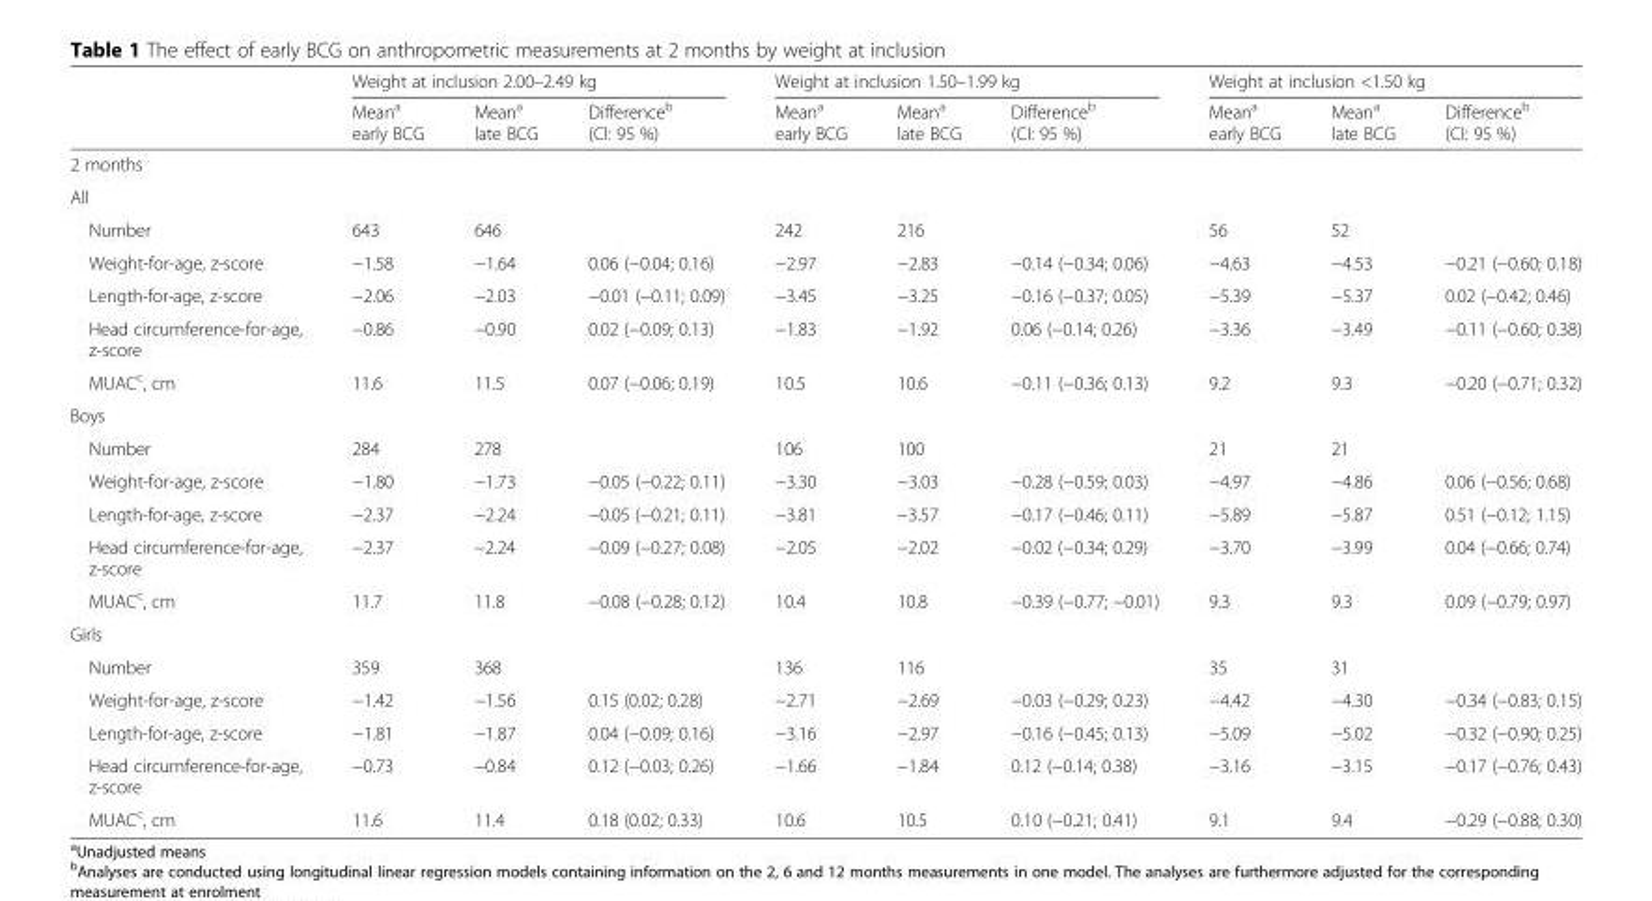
<table><thead><tr><td rowspan="2"></td><td colspan="3">Weight at inclusion 2.00–2.49 kg</td><td colspan="3">Weight at inclusion 1.50–1.99 kg</td><td colspan="3">Weight at inclusion &lt;1.50 kg</td></tr><tr><td>Mean<sup>a</sup> early BCG</td><td>Mean<sup>a</sup> late BCG</td><td>Difference<sup>b</sup> (CI: 95 %)</td><td>Mean<sup>a</sup> early BCG</td><td>Mean<sup>a</sup> late BCG</td><td>Difference<sup>b</sup> (CI: 95 %)</td><td>Mean<sup>a</sup> early BCG</td><td>Mean<sup>a</sup> late BCG</td><td>Difference<sup>b</sup> (CI: 95 %)</td></tr></thead><tbody><tr><td colspan="10">2 months</td></tr><tr><td colspan="10">All</td></tr><tr><td>Number</td><td>643</td><td>646</td><td></td><td>242</td><td>216</td><td></td><td>56</td><td>52</td><td></td></tr><tr><td>Weight-for-age, z-score</td><td>−1.58</td><td>−1.64</td><td>0.06 (−0.04; 0.16)</td><td>−2.97</td><td>−2.83</td><td>−0.14 (−0.34; 0.06)</td><td>−4.63</td><td>−4.53</td><td>−0.21 (−0.60; 0.18)</td></tr><tr><td>Length-for-age, z-score</td><td>−2.06</td><td>−2.03</td><td>−0.01 (−0.11; 0.09)</td><td>−3.45</td><td>−3.25</td><td>−0.16 (−0.37; 0.05)</td><td>−5.39</td><td>−5.37</td><td>0.02 (−0.42; 0.46)</td></tr><tr><td>Head circumference-for-age, z-score</td><td>−0.86</td><td>−0.90</td><td>0.02 (−0.09; 0.13)</td><td>−1.83</td><td>−1.92</td><td>0.06 (−0.14; 0.26)</td><td>−3.36</td><td>−3.49</td><td>−0.11 (−0.60; 0.38)</td></tr><tr><td>MUAC<sup>c</sup>, cm</td><td>11.6</td><td>11.5</td><td>0.07 (−0.06; 0.19)</td><td>10.5</td><td>10.6</td><td>−0.11 (−0.36; 0.13)</td><td>9.2</td><td>9.3</td><td>−0.20 (−0.71; 0.32)</td></tr><tr><td colspan="10">Boys</td></tr><tr><td>Number</td><td>284</td><td>278</td><td></td><td>106</td><td>100</td><td></td><td>21</td><td>21</td><td></td></tr><tr><td>Weight-for-age, z-score</td><td>−1.80</td><td>−1.73</td><td>−0.05 (−0.22; 0.11)</td><td>−3.30</td><td>−3.03</td><td>−0.28 (−0.59; 0.03)</td><td>−4.97</td><td>−4.86</td><td>0.06 (−0.56; 0.68)</td></tr><tr><td>Length-for-age, z-score</td><td>−2.37</td><td>−2.24</td><td>−0.05 (−0.21; 0.11)</td><td>−3.81</td><td>−3.57</td><td>−0.17 (−0.46; 0.11)</td><td>−5.89</td><td>−5.87</td><td>0.51 (−0.12; 1.15)</td></tr><tr><td>Head circumference-for-age, z-score</td><td>−2.37</td><td>−2.24</td><td>−0.09 (−0.27; 0.08)</td><td>−2.05</td><td>−2.02</td><td>−0.02 (−0.34; 0.29)</td><td>−3.70</td><td>−3.99</td><td>0.04 (−0.66; 0.74)</td></tr><tr><td>MUAC<sup>c</sup>, cm</td><td>11.7</td><td>11.8</td><td>−0.08 (−0.28; 0.12)</td><td>10.4</td><td>10.8</td><td>−0.39 (−0.77; −0.01)</td><td>9.3</td><td>9.3</td><td>0.09 (−0.79; 0.97)</td></tr><tr><td colspan="10">Girls</td></tr><tr><td>Number</td><td>359</td><td>368</td><td></td><td>136</td><td>116</td><td></td><td>35</td><td>31</td><td></td></tr><tr><td>Weight-for-age, z-score</td><td>−1.42</td><td>−1.56</td><td>0.15 (0.02; 0.28)</td><td>−2.71</td><td>−2.69</td><td>−0.03 (−0.29; 0.23)</td><td>−4.42</td><td>−4.30</td><td>−0.34 (−0.83; 0.15)</td></tr><tr><td>Length-for-age, z-score</td><td>−1.81</td><td>−1.87</td><td>0.04 (−0.09; 0.16)</td><td>−3.16</td><td>−2.97</td><td>−0.16 (−0.45; 0.13)</td><td>−5.09</td><td>−5.02</td><td>−0.32 (−0.90; 0.25)</td></tr><tr><td>Head circumference-for-age, z-score</td><td>−0.73</td><td>−0.84</td><td>0.12 (−0.03; 0.26)</td><td>−1.66</td><td>−1.84</td><td>0.12 (−0.14; 0.38)</td><td>−3.16</td><td>−3.15</td><td>−0.17 (−0.76; 0.43)</td></tr><tr><td>MUAC<sup>c</sup>, cm</td><td>11.6</td><td>11.4</td><td>0.18 (0.02; 0.33)</td><td>10.6</td><td>10.5</td><td>0.10 (−0.21; 0.41)</td><td>9.1</td><td>9.4</td><td>−0.29 (−0.88; 0.30)</td></tr></tbody></table>